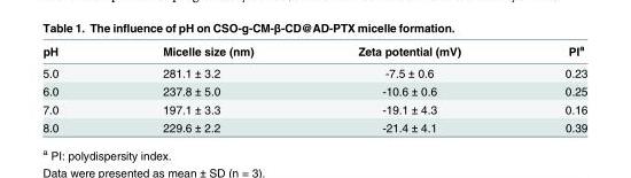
<table><thead><tr><td>pH</td><td>Micelle size (nm)</td><td>Zeta potential (mV)</td><td>PI<sup>a</sup></td></tr></thead><tbody><tr><td>5.0</td><td>281.1 ± 3.2</td><td>-7.5 ± 0.6</td><td>0.23</td></tr><tr><td>6.0</td><td>237.8 ± 5.0</td><td>-10.6 ± 0.6</td><td>0.25</td></tr><tr><td>7.0</td><td>197.1 ± 3.3</td><td>-19.1 ± 4.3</td><td>0.16</td></tr><tr><td>8.0</td><td>229.6 ± 2.2</td><td>-21.4 ± 4.1</td><td>0.39</td></tr></tbody></table>